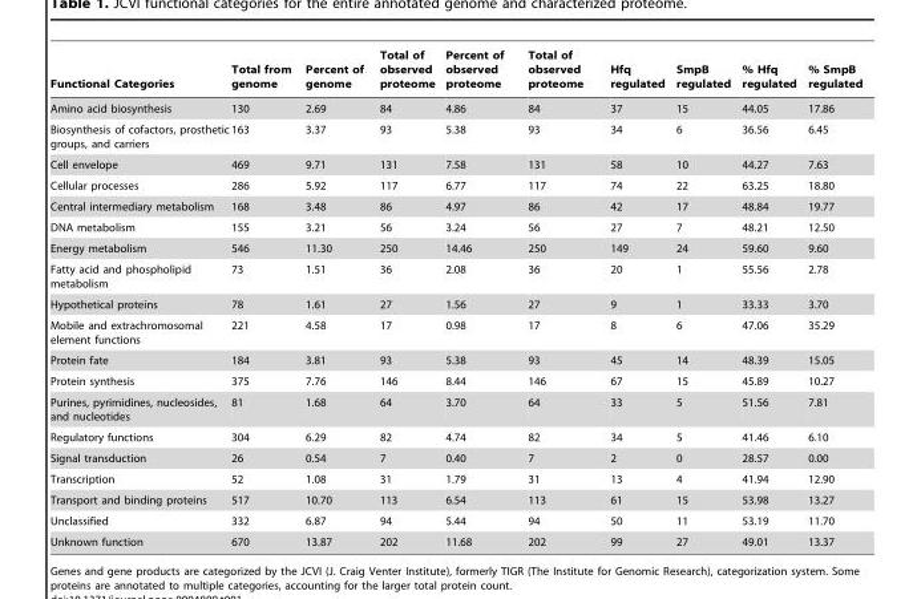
<table><thead><tr><td>Functional Categories</td><td>Total from genome</td><td>Percent of genome</td><td>Total of observed proteome</td><td>Percent of observed proteome</td><td>Total of observed proteome</td><td>Hfq regulated</td><td>SmpB regulated</td><td>% Hfq regulated</td><td>% SmpB regulated</td></tr></thead><tbody><tr><td>Amino acid biosynthesis</td><td>130</td><td>2.69</td><td>84</td><td>4.86</td><td>84</td><td>37</td><td>15</td><td>44.05</td><td>17.86</td></tr><tr><td>Biosynthesis of cofactors, prosthetic groups, and carriers</td><td>163</td><td>3.37</td><td>93</td><td>5.38</td><td>93</td><td>34</td><td>6</td><td>36.56</td><td>6.45</td></tr><tr><td>Cell envelope</td><td>469</td><td>9.71</td><td>131</td><td>7.58</td><td>131</td><td>58</td><td>10</td><td>44.27</td><td>7.63</td></tr><tr><td>Cellular processes</td><td>286</td><td>5.92</td><td>117</td><td>6.77</td><td>117</td><td>74</td><td>22</td><td>63.25</td><td>18.80</td></tr><tr><td>Central intermediary metabolism</td><td>168</td><td>3.48</td><td>86</td><td>4.97</td><td>86</td><td>42</td><td>17</td><td>48.84</td><td>19.77</td></tr><tr><td>DNA metabolism</td><td>155</td><td>3.21</td><td>56</td><td>3.24</td><td>56</td><td>27</td><td>7</td><td>48.21</td><td>12.50</td></tr><tr><td>Energy metabolism</td><td>546</td><td>11.30</td><td>250</td><td>14.46</td><td>250</td><td>149</td><td>24</td><td>59.60</td><td>9.60</td></tr><tr><td>Fatty acid and phospholipid metabolism</td><td>73</td><td>1.51</td><td>36</td><td>2.08</td><td>36</td><td>20</td><td>1</td><td>55.56</td><td>2.78</td></tr><tr><td>Hypothetical proteins</td><td>78</td><td>1.61</td><td>27</td><td>1.56</td><td>27</td><td>9</td><td>1</td><td>33.33</td><td>3.70</td></tr><tr><td>Mobile and extrachromosomal element functions</td><td>221</td><td>4.58</td><td>17</td><td>0.98</td><td>17</td><td>8</td><td>6</td><td>47.06</td><td>35.29</td></tr><tr><td>Protein fate</td><td>184</td><td>3.81</td><td>93</td><td>5.38</td><td>93</td><td>45</td><td>14</td><td>48.39</td><td>15.05</td></tr><tr><td>Protein synthesis</td><td>375</td><td>7.76</td><td>146</td><td>8.44</td><td>146</td><td>67</td><td>15</td><td>45.89</td><td>10.27</td></tr><tr><td>Purines, pyrimidines, nucleosides, and nucleotides</td><td>81</td><td>1.68</td><td>64</td><td>3.70</td><td>64</td><td>33</td><td>5</td><td>51.56</td><td>7.81</td></tr><tr><td>Regulatory functions</td><td>304</td><td>6.29</td><td>82</td><td>4.74</td><td>82</td><td>34</td><td>5</td><td>41.46</td><td>6.10</td></tr><tr><td>Signal transduction</td><td>26</td><td>0.54</td><td>7</td><td>0.40</td><td>7</td><td>2</td><td>0</td><td>28.57</td><td>0.00</td></tr><tr><td>Transcription</td><td>52</td><td>1.08</td><td>31</td><td>1.79</td><td>31</td><td>13</td><td>4</td><td>41.94</td><td>12.90</td></tr><tr><td>Transport and binding proteins</td><td>517</td><td>10.70</td><td>113</td><td>6.54</td><td>113</td><td>61</td><td>15</td><td>53.98</td><td>13.27</td></tr><tr><td>Unclassified</td><td>332</td><td>6.87</td><td>94</td><td>5.44</td><td>94</td><td>50</td><td>11</td><td>53.19</td><td>11.70</td></tr><tr><td>Unknown function</td><td>670</td><td>13.87</td><td>202</td><td>11.68</td><td>202</td><td>99</td><td>27</td><td>49.01</td><td>13.37</td></tr></tbody></table>